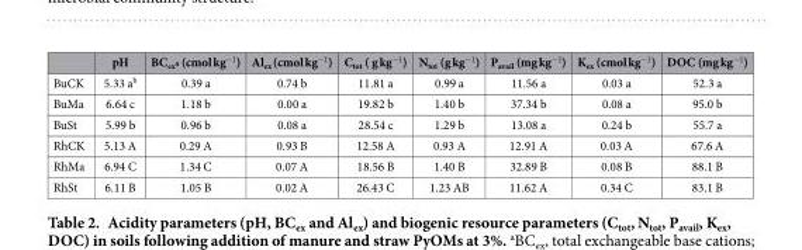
<table><thead><tr><td></td><td>pH</td><td>BC<sub>exa</sub> (cmol kg<sup>−1</sup>)</td><td>Al<sub>ex</sub> (cmol kg<sup>−1</sup>)</td><td>C<sub>tot</sub> ( g kg<sup>−1</sup>)</td><td>N<sub>tot</sub> (g kg<sup>−1</sup>)</td><td>P<sub>avail</sub> (mg kg<sup>−1</sup>)</td><td>K<sub>ex</sub> (cmol kg<sup>−1</sup>)</td><td>DOC (mg kg<sup>−1</sup>)</td></tr></thead><tbody><tr><td>BuCK</td><td>5.33 a<sup>b</sup></td><td>0.39 a</td><td>0.74 b</td><td>11.81 a</td><td>0.99 a</td><td>11.56 a</td><td>0.03 a</td><td>52.3 a</td></tr><tr><td>BuMa</td><td>6.64 c</td><td>1.18 b</td><td>0.00 a</td><td>19.82 b</td><td>1.40 b</td><td>37.34 b</td><td>0.08 a</td><td>95.0 b</td></tr><tr><td>BuSt</td><td>5.99 b</td><td>0.96 b</td><td>0.08 a</td><td>28.54 c</td><td>1.29 b</td><td>13.08 a</td><td>0.24 b</td><td>55.7 a</td></tr><tr><td>RhCK</td><td>5.13 A</td><td>0.29 A</td><td>0.93 B</td><td>12.58 A</td><td>0.93 A</td><td>12.91 A</td><td>0.03 A</td><td>67.6 A</td></tr><tr><td>RhMa</td><td>6.94 C</td><td>1.34 C</td><td>0.07 A</td><td>18.56 B</td><td>1.40 B</td><td>32.89 B</td><td>0.08 B</td><td>88.1 B</td></tr><tr><td>RhSt</td><td>6.11 B</td><td>1.05 B</td><td>0.02 A</td><td>26.43 C</td><td>1.23 AB</td><td>11.62 A</td><td>0.34 C</td><td>83.1 B</td></tr></tbody></table>